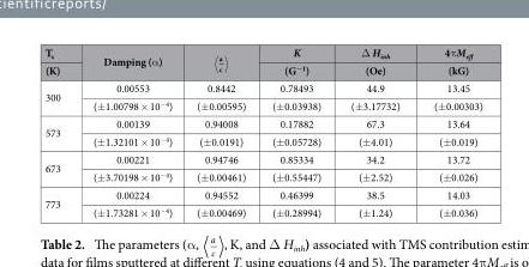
<table><thead><tr><td rowspan="2">T<sub>s</sub> (K)</td><td rowspan="2">Damping (α )</td><td rowspan="2">a c</td><td rowspan="2">K (G<sup>−1</sup>)</td><td rowspan="2">Δ H<sub>inh</sub> (Oe)</td><td rowspan="2">4π M<sub>eff</sub> (kG)</td></tr><tr></tr></thead><tbody><tr><td rowspan="2">300</td><td>0.00553</td><td>0.8442</td><td>0.78493</td><td>44.9</td><td>13.45</td></tr><tr><td>(± 1.00798 × 10<sup>−4</sup>)</td><td>(± 0.00595)</td><td>(± 0.03938)</td><td>(± 3.17732)</td><td>(± 0.00303)</td></tr><tr><td rowspan="2">573</td><td>0.00139</td><td>0.94008</td><td>0.17882</td><td>67.3</td><td>13.64</td></tr><tr><td>(± 1.32101 × 10<sup>−4</sup>)</td><td>(± 0.0191)</td><td>(± 0.05728)</td><td>(± 4.01)</td><td>(± 0.019)</td></tr><tr><td rowspan="2">673</td><td>0.00221</td><td>0.94746</td><td>0.85334</td><td>34.2</td><td>13.72</td></tr><tr><td>(± 3.70198 × 10<sup>−4</sup>)</td><td>(± 0.00461)</td><td>(± 0.55447)</td><td>(± 2.52)</td><td>(± 0.026)</td></tr><tr><td rowspan="2">773</td><td>0.00224</td><td>0.94552</td><td>0.46399</td><td>38.5</td><td>14.03</td></tr><tr><td>(± 1.73281 × 10<sup>−4</sup>)</td><td>(± 0.00469)</td><td>(± 0.28994)</td><td>(± 1.24)</td><td>(± 0.036)</td></tr></tbody></table>